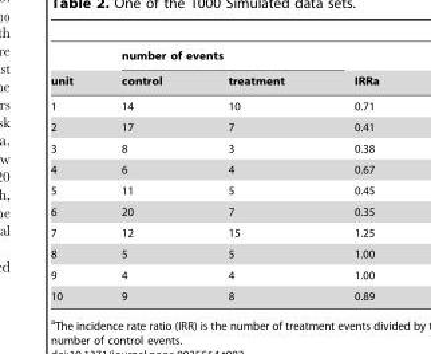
<table><thead><tr><td rowspan="2">unit</td><td colspan="2">number of events</td><td rowspan="2">IRRa</td></tr><tr><td>control</td><td>treatment</td></tr></thead><tbody><tr><td>1</td><td>14</td><td>10</td><td>0.71</td></tr><tr><td>2</td><td>17</td><td>7</td><td>0.41</td></tr><tr><td>3</td><td>8</td><td>3</td><td>0.38</td></tr><tr><td>4</td><td>6</td><td>4</td><td>0.67</td></tr><tr><td>5</td><td>11</td><td>5</td><td>0.45</td></tr><tr><td>6</td><td>20</td><td>7</td><td>0.35</td></tr><tr><td>7</td><td>12</td><td>15</td><td>1.25</td></tr><tr><td>8</td><td>5</td><td>5</td><td>1.00</td></tr><tr><td>9</td><td>4</td><td>4</td><td>1.00</td></tr><tr><td>10</td><td>9</td><td>8</td><td>0.89</td></tr></tbody></table>